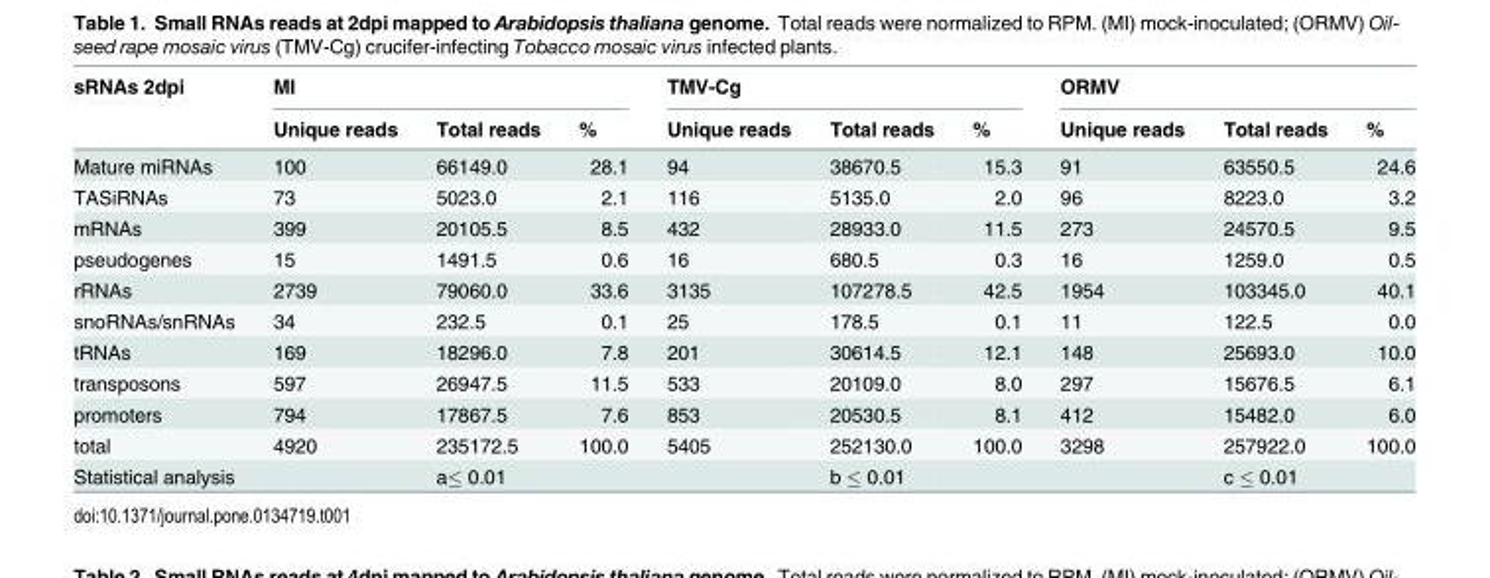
<table><thead><tr><td rowspan="2">sRNAs 2dpi</td><td colspan="3">MI</td><td colspan="3">TMV-Cg</td><td colspan="3">ORMV</td></tr><tr><td>Unique reads</td><td>Total reads</td><td>%</td><td>Unique reads</td><td>Total reads</td><td>%</td><td>Unique reads</td><td>Total reads</td><td>%</td></tr></thead><tbody><tr><td>Mature miRNAs</td><td>100</td><td>66149.0</td><td>28.1</td><td>94</td><td>38670.5</td><td>15.3</td><td>91</td><td>63550.5</td><td>24.6</td></tr><tr><td>TASiRNAs</td><td>73</td><td>5023.0</td><td>2.1</td><td>116</td><td>5135.0</td><td>2.0</td><td>96</td><td>8223.0</td><td>3.2</td></tr><tr><td>mRNAs</td><td>399</td><td>20105.5</td><td>8.5</td><td>432</td><td>28933.0</td><td>11.5</td><td>273</td><td>24570.5</td><td>9.5</td></tr><tr><td>pseudogenes</td><td>15</td><td>1491.5</td><td>0.6</td><td>16</td><td>680.5</td><td>0.3</td><td>16</td><td>1259.0</td><td>0.5</td></tr><tr><td>rRNAs</td><td>2739</td><td>79060.0</td><td>33.6</td><td>3135</td><td>107278.5</td><td>42.5</td><td>1954</td><td>103345.0</td><td>40.1</td></tr><tr><td>snoRNAs/snRNAs</td><td>34</td><td>232.5</td><td>0.1</td><td>25</td><td>178.5</td><td>0.1</td><td>11</td><td>122.5</td><td>0.0</td></tr><tr><td>tRNAs</td><td>169</td><td>18296.0</td><td>7.8</td><td>201</td><td>30614.5</td><td>12.1</td><td>148</td><td>25693.0</td><td>10.0</td></tr><tr><td>transposons</td><td>597</td><td>26947.5</td><td>11.5</td><td>533</td><td>20109.0</td><td>8.0</td><td>297</td><td>15676.5</td><td>6.1</td></tr><tr><td>promoters</td><td>794</td><td>17867.5</td><td>7.6</td><td>853</td><td>20530.5</td><td>8.1</td><td>412</td><td>15482.0</td><td>6.0</td></tr><tr><td>total</td><td>4920</td><td>235172.5</td><td>100.0</td><td>5405</td><td>252130.0</td><td>100.0</td><td>3298</td><td>257922.0</td><td>100.0</td></tr><tr><td>Statistical analysis</td><td></td><td>a≤ 0.01</td><td></td><td></td><td>b ≤ 0.01</td><td></td><td></td><td>c ≤ 0.01</td><td></td></tr></tbody></table>